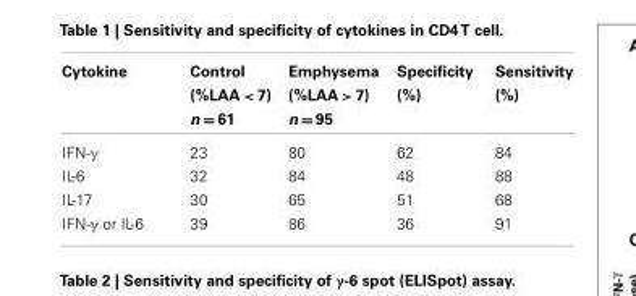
<table><thead><tr><td>Cytokine</td><td>Control (%LAA &lt; 7) n = 61</td><td>Emphysema (%LAA &gt; 7) n = 95</td><td>Specificity (%)</td><td>Sensitivity (%)</td></tr></thead><tbody><tr><td>IFN-γ</td><td>23</td><td>80</td><td>62</td><td>84</td></tr><tr><td>IL-6</td><td>32</td><td>84</td><td>48</td><td>88</td></tr><tr><td>IL-17</td><td>30</td><td>65</td><td>51</td><td>68</td></tr><tr><td>IFN-γ or IL-6</td><td>39</td><td>86</td><td>36</td><td>91</td></tr></tbody></table>